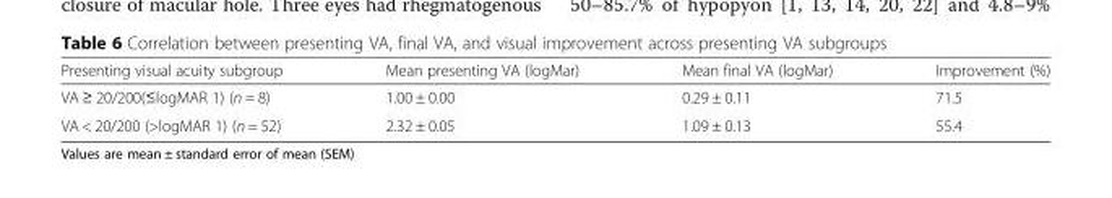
<table><thead><tr><td>Presenting visual acuity subgroup</td><td>Mean presenting VA (logMar)</td><td>Mean final VA (logMar)</td><td>Improvement (%)</td></tr></thead><tbody><tr><td>VA ≥ 20/200(≤logMAR 1) (n = 8)</td><td>1.00 ± 0.00</td><td>0.29 ± 0.11</td><td>71.5</td></tr><tr><td>VA &lt; 20/200 (&gt;logMAR 1) (n = 52)</td><td>2.32 ± 0.05</td><td>1.09 ± 0.13</td><td>55.4</td></tr></tbody></table>